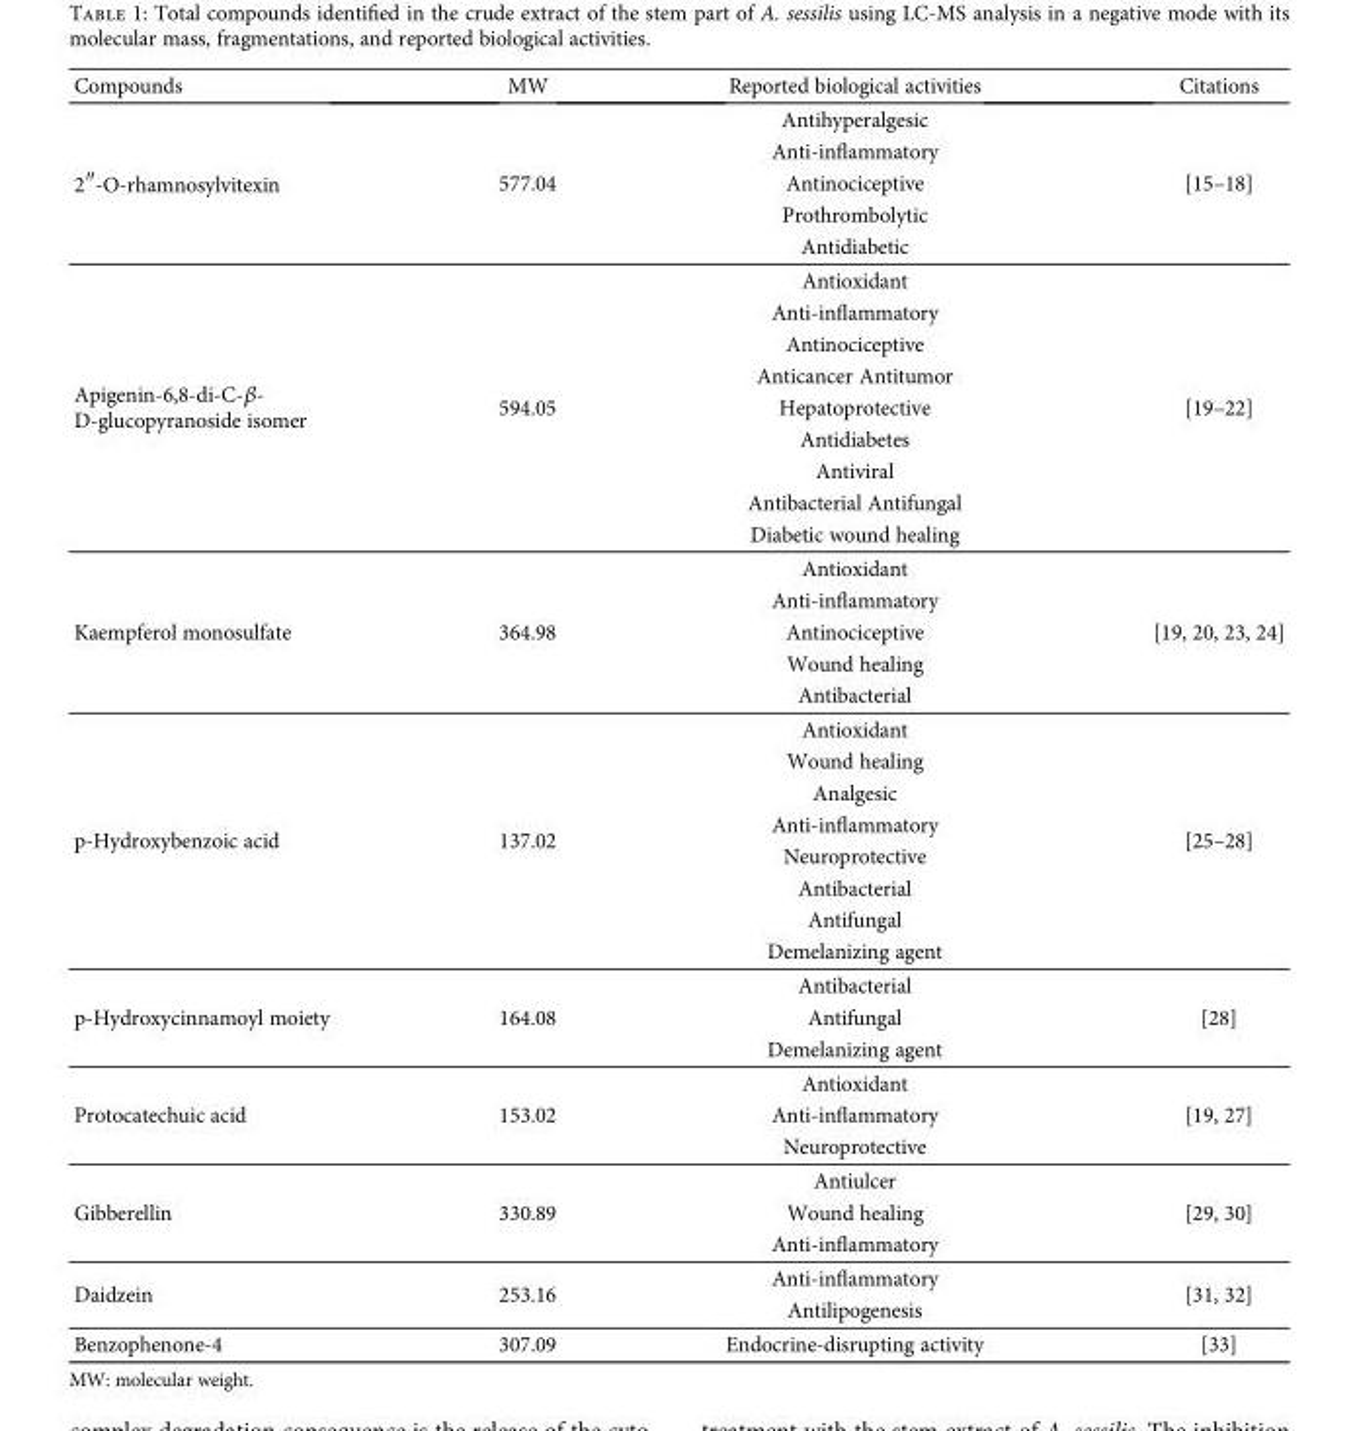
<table><thead><tr><td>Compounds</td><td>MW</td><td>Reported biological activities</td><td>Citations</td></tr></thead><tbody><tr><td rowspan="5">2<sup>″</sup>-O-rhamnosylvitexin</td><td rowspan="5">577.04</td><td>Antihyperalgesic</td><td rowspan="5">[15–18]</td></tr><tr><td>Anti-inflammatory</td></tr><tr><td>Antinociceptive</td></tr><tr><td>Prothrombolytic</td></tr><tr><td>Antidiabetic</td></tr><tr><td rowspan="9">Apigenin-6,8-di-C-β- D-glucopyranoside isomer</td><td rowspan="9">594.05</td><td>Antioxidant</td><td rowspan="9">[19–22]</td></tr><tr><td>Anti-inflammatory</td></tr><tr><td>Antinociceptive</td></tr><tr><td>Anticancer Antitumor</td></tr><tr><td>Hepatoprotective</td></tr><tr><td>Antidiabetes</td></tr><tr><td>Antiviral</td></tr><tr><td>Antibacterial Antifungal</td></tr><tr><td>Diabetic wound healing</td></tr><tr><td rowspan="5">Kaempferol monosulfate</td><td rowspan="5">364.98</td><td>Antioxidant</td><td rowspan="5">[19, 20, 23, 24]</td></tr><tr><td>Anti-inflammatory</td></tr><tr><td>Antinociceptive</td></tr><tr><td>Wound healing</td></tr><tr><td>Antibacterial</td></tr><tr><td rowspan="8">p-Hydroxybenzoic acid</td><td rowspan="8">137.02</td><td>Antioxidant</td><td rowspan="8">[25–28]</td></tr><tr><td>Wound healing</td></tr><tr><td>Analgesic</td></tr><tr><td>Anti-inflammatory</td></tr><tr><td>Neuroprotective</td></tr><tr><td>Antibacterial</td></tr><tr><td>Antifungal</td></tr><tr><td>Demelanizing agent</td></tr><tr><td rowspan="3">p-Hydroxycinnamoyl moiety</td><td rowspan="3">164.08</td><td>Antibacterial</td><td rowspan="3">[28]</td></tr><tr><td>Antifungal</td></tr><tr><td>Demelanizing agent</td></tr><tr><td rowspan="3">Protocatechuic acid</td><td rowspan="3">153.02</td><td>Antioxidant</td><td rowspan="3">[19, 27]</td></tr><tr><td>Anti-inflammatory</td></tr><tr><td>Neuroprotective</td></tr><tr><td rowspan="3">Gibberellin</td><td rowspan="3">330.89</td><td>Antiulcer</td><td rowspan="3">[29, 30]</td></tr><tr><td>Wound healing</td></tr><tr><td>Anti-inflammatory</td></tr><tr><td rowspan="2">Daidzein</td><td rowspan="2">253.16</td><td>Anti-inflammatory</td><td rowspan="2">[31, 32]</td></tr><tr><td>Antilipogenesis</td></tr><tr><td>Benzophenone-4</td><td>307.09</td><td>Endocrine-disrupting activity</td><td>[33]</td></tr></tbody></table>